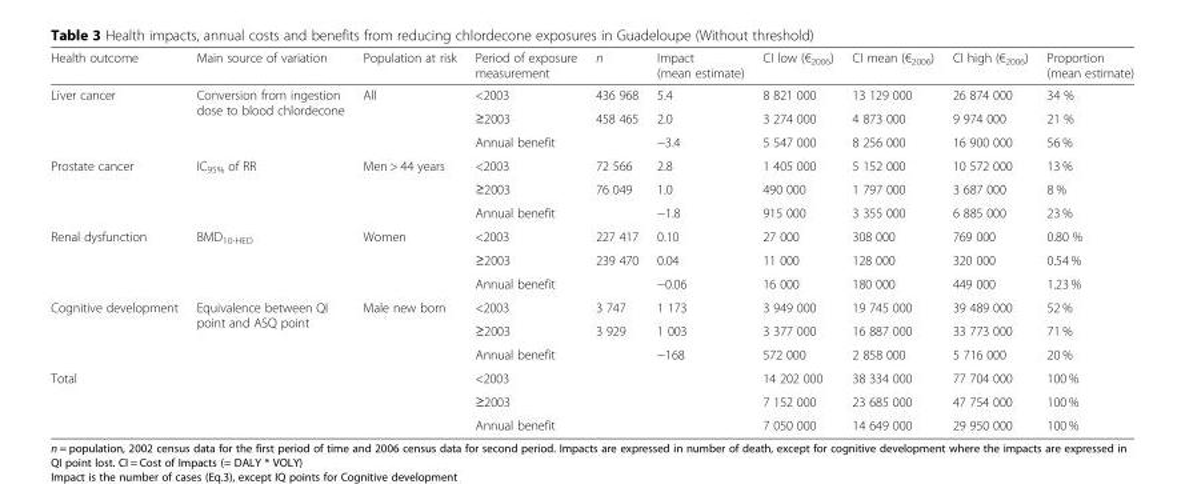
<table><thead><tr><td>Health outcome</td><td>Main source of variation</td><td>Population at risk</td><td>Period of exposure measurement</td><td>n</td><td>Impact (mean estimate)</td><td>CI low (€<sub>2006</sub>)</td><td>CI mean (€<sub>2006</sub>)</td><td>CI high (€<sub>2006</sub>)</td><td>Proportion (mean estimate)</td></tr></thead><tbody><tr><td rowspan="3">Liver cancer</td><td rowspan="3">Conversion from ingestion dose to blood chlordecone</td><td rowspan="3">All</td><td>&lt;2003</td><td>436 968</td><td>5.4</td><td>8 821 000</td><td>13 129 000</td><td>26 874 000</td><td>34 %</td></tr><tr><td>≥2003</td><td>458 465</td><td>2.0</td><td>3 274 000</td><td>4 873 000</td><td>9 974 000</td><td>21 %</td></tr><tr><td>Annual benefit</td><td></td><td>−3.4</td><td>5 547 000</td><td>8 256 000</td><td>16 900 000</td><td>56 %</td></tr><tr><td rowspan="3">Prostate cancer</td><td rowspan="3">IC<sub>95%</sub> of RR</td><td rowspan="3">Men &gt; 44 years</td><td>&lt;2003</td><td>72 566</td><td>2.8</td><td>1 405 000</td><td>5 152 000</td><td>10 572 000</td><td>13 %</td></tr><tr><td>≥2003</td><td>76 049</td><td>1.0</td><td>490 000</td><td>1 797 000</td><td>3 687 000</td><td>8 %</td></tr><tr><td>Annual benefit</td><td></td><td>−1.8</td><td>915 000</td><td>3 355 000</td><td>6 885 000</td><td>23 %</td></tr><tr><td rowspan="3">Renal dysfunction</td><td rowspan="3">BMD<sub>10-HED</sub></td><td rowspan="3">Women</td><td>&lt;2003</td><td>227 417</td><td>0.10</td><td>27 000</td><td>308 000</td><td>769 000</td><td>0.80 %</td></tr><tr><td>≥2003</td><td>239 470</td><td>0.04</td><td>11 000</td><td>128 000</td><td>320 000</td><td>0.54 %</td></tr><tr><td>Annual benefit</td><td></td><td>−0.06</td><td>16 000</td><td>180 000</td><td>449 000</td><td>1.23 %</td></tr><tr><td rowspan="3">Cognitive development</td><td rowspan="3">Equivalence between QI point and ASQ point</td><td rowspan="3">Male new born</td><td>&lt;2003</td><td>3 747</td><td>1 173</td><td>3 949 000</td><td>19 745 000</td><td>39 489 000</td><td>52 %</td></tr><tr><td>≥2003</td><td>3 929</td><td>1 003</td><td>3 377 000</td><td>16 887 000</td><td>33 773 000</td><td>71 %</td></tr><tr><td>Annual benefit</td><td></td><td>−168</td><td>572 000</td><td>2 858 000</td><td>5 716 000</td><td>20 %</td></tr><tr><td rowspan="3">Total</td><td rowspan="3"></td><td rowspan="3"></td><td>&lt;2003</td><td></td><td></td><td>14 202 000</td><td>38 334 000</td><td>77 704 000</td><td>100 %</td></tr><tr><td>≥2003</td><td></td><td></td><td>7 152 000</td><td>23 685 000</td><td>47 754 000</td><td>100 %</td></tr><tr><td>Annual benefit</td><td></td><td></td><td>7 050 000</td><td>14 649 000</td><td>29 950 000</td><td>100 %</td></tr></tbody></table>